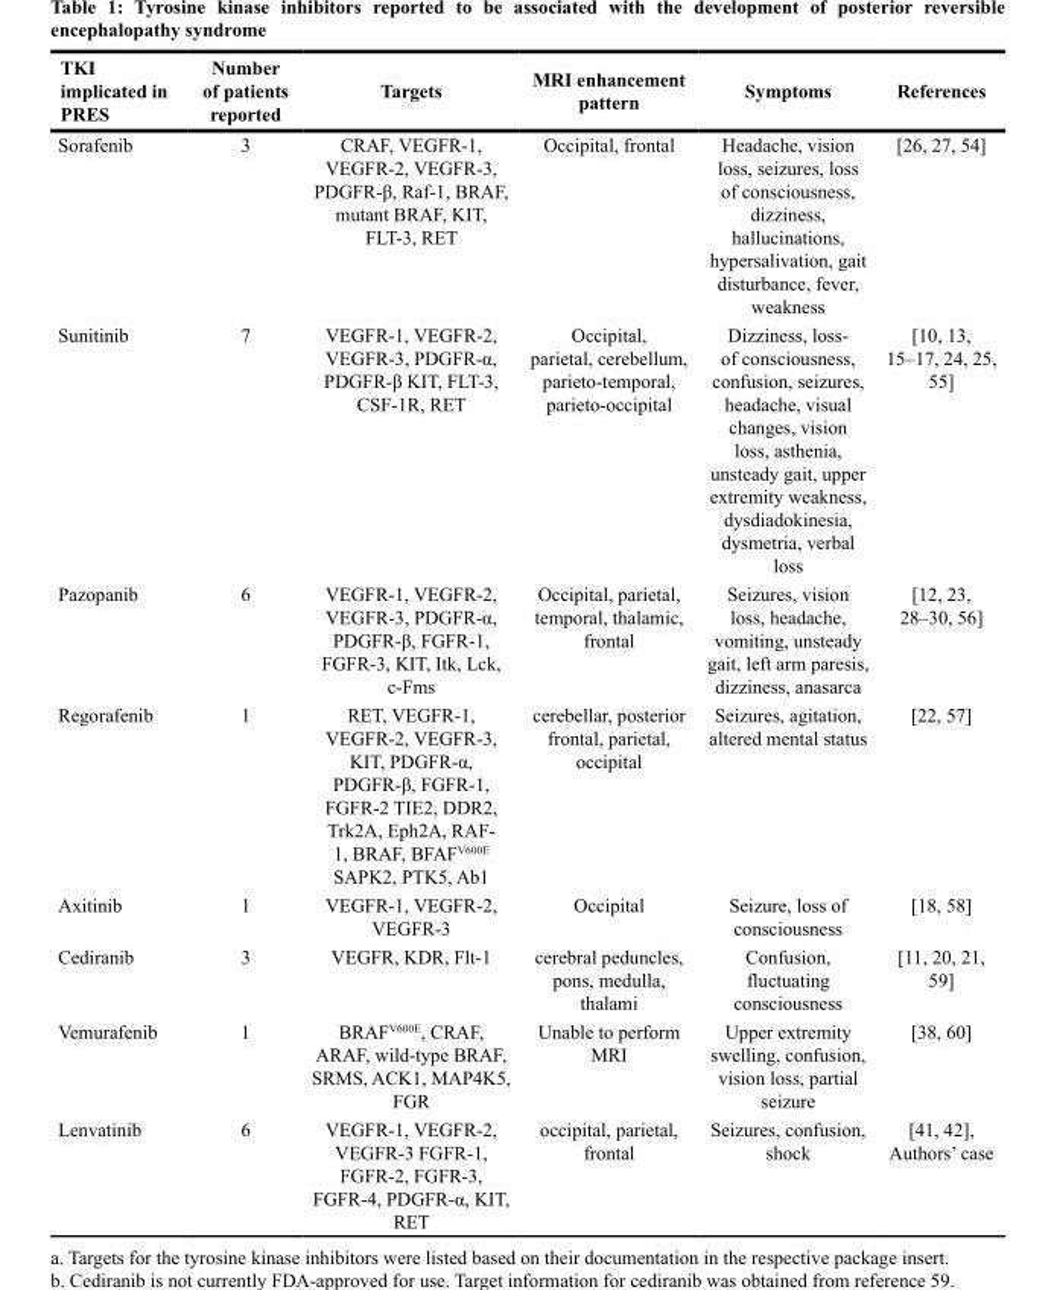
<table><thead><tr><td>TKI implicated in PRES</td><td>Number of patients reported</td><td>Targets</td><td>MRI enhancement pattern</td><td>Symptoms</td><td>References</td></tr></thead><tbody><tr><td>Sorafenib</td><td>3</td><td>CRAF, VEGFR-1, VEGFR-2, VEGFR-3, PDGFR-β, Raf-1, BRAF, mutant BRAF, KIT, FLT-3, RET</td><td>Occipital, frontal</td><td>Headache, vision loss, seizures, loss of consciousness, dizziness, hallucinations, hypersalivation, gait disturbance, fever, weakness</td><td>[26, 27, 54]</td></tr><tr><td>Sunitinib</td><td>7</td><td>VEGFR-1, VEGFR-2, VEGFR-3, PDGFR-α, PDGFR-β KIT, FLT-3, CSF-1R, RET</td><td>Occipital, parietal, cerebellum, parieto-temporal, parieto-occipital</td><td>Dizziness, loss- of consciousness, confusion, seizures, headache, visual changes, vision loss, asthenia, unsteady gait, upper extremity weakness, dysdiadokinesia, dysmetria, verbal loss</td><td>[10, 13, 15–17, 24, 25, 55]</td></tr><tr><td>Pazopanib</td><td>6</td><td>VEGFR-1, VEGFR-2, VEGFR-3, PDGFR-α, PDGFR-β, FGFR-1, FGFR-3, KIT, Itk, Lck, c-Fms</td><td>Occipital, parietal, temporal, thalamic, frontal</td><td>Seizures, vision loss, headache, vomiting, unsteady gait, left arm paresis, dizziness, anasarca</td><td>[12, 23, 28–30, 56]</td></tr><tr><td>Regorafenib</td><td>1</td><td>RET, VEGFR-1, VEGFR-2, VEGFR-3, KIT, PDGFR-α, PDGFR-β, FGFR-1, FGFR-2 TIE2, DDR2, Trk2A, Eph2A, RAF- 1, BRAF, BFAF<sup>V600E</sup> SAPK2, PTK5, Ab1</td><td>cerebellar, posterior frontal, parietal, occipital</td><td>Seizures, agitation, altered mental status</td><td>[22, 57]</td></tr><tr><td>Axitinib</td><td>1</td><td>VEGFR-1, VEGFR-2, VEGFR-3</td><td>Occipital</td><td>Seizure, loss of consciousness</td><td>[18, 58]</td></tr><tr><td>Cediranib</td><td>3</td><td>VEGFR, KDR, Flt-1</td><td>cerebral peduncles, pons, medulla, thalami</td><td>Confusion, fluctuating consciousness</td><td>[11, 20, 21, 59]</td></tr><tr><td>Vemurafenib</td><td>1</td><td>BRAF<sup>V600E</sup>, CRAF, ARAF, wild-type BRAF, SRMS, ACK1, MAP4K5, FGR</td><td>Unable to perform MRI</td><td>Upper extremity swelling, confusion, vision loss, partial seizure</td><td>[38, 60]</td></tr><tr><td>Lenvatinib</td><td>6</td><td>VEGFR-1, VEGFR-2, VEGFR-3 FGFR-1, FGFR-2, FGFR-3, FGFR-4, PDGFR-α, KIT, RET</td><td>occipital, parietal, frontal</td><td>Seizures, confusion, shock</td><td>[41, 42], Authors’ case</td></tr></tbody></table>